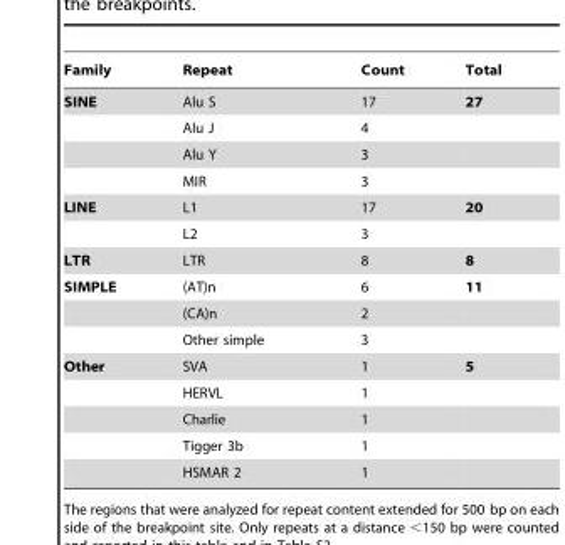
<table><thead><tr><td>Family</td><td>Repeat</td><td>Count</td><td>Total</td></tr></thead><tbody><tr><td rowspan="4">SINE</td><td>Alu S</td><td>17</td><td>27</td></tr><tr><td>Alu J</td><td>4</td><td></td></tr><tr><td>Alu Y</td><td>3</td><td></td></tr><tr><td>MIR</td><td>3</td><td></td></tr><tr><td rowspan="2">LINE</td><td>L1</td><td>17</td><td>20</td></tr><tr><td>L2</td><td>3</td><td></td></tr><tr><td>LTR</td><td>LTR</td><td>8</td><td>8</td></tr><tr><td rowspan="3">SIMPLE</td><td>(AT)n</td><td>6</td><td>11</td></tr><tr><td>(CA)n</td><td>2</td><td></td></tr><tr><td>Other simple</td><td>3</td><td></td></tr><tr><td rowspan="5">Other</td><td>SVA</td><td>1</td><td>5</td></tr><tr><td>HERVL</td><td>1</td><td></td></tr><tr><td>Charlie</td><td>1</td><td></td></tr><tr><td>Tigger 3b</td><td>1</td><td></td></tr><tr><td>HSMAR 2</td><td>1</td><td></td></tr></tbody></table>